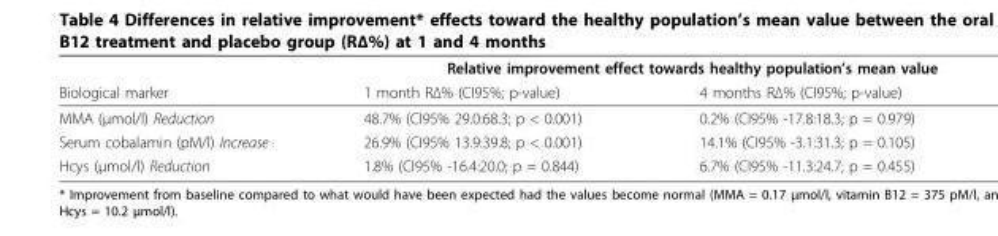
<table><thead><tr><td rowspan="2">Biological marker</td><td colspan="2">Relative improvement effect towards healthy population’s mean value</td></tr><tr><td>1 month RΔ% (CI95%; p-value)</td><td>4 months RΔ% (CI95%; p-value)</td></tr></thead><tbody><tr><td>MMA (μmol/l) Reduction</td><td>48.7% (CI95% 29.0:68.3; p &lt; 0.001)</td><td>0.2% (CI95% -17.8:18.3; p = 0.979)</td></tr><tr><td>Serum cobalamin (pM/l) Increase</td><td>26.9% (CI95% 13.9:39.8; p &lt; 0.001)</td><td>14.1% (CI95% -3.1:31.3; p = 0.105)</td></tr><tr><td>Hcys (μmol/l) Reduction</td><td>1.8% (CI95% -16.4:20.0; p = 0.844)</td><td>6.7% (CI95% -11.3:24.7; p = 0.455)</td></tr></tbody></table>